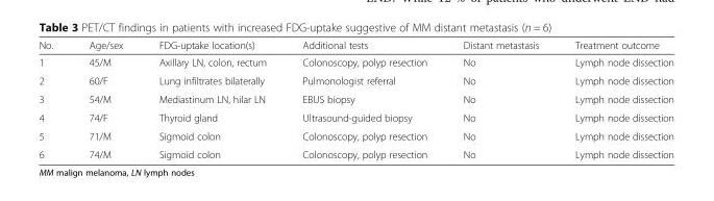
<table><thead><tr><td>No.</td><td>Age/sex</td><td>FDG-uptake location(s)</td><td>Additional tests</td><td>Distant metastasis</td><td>Treatment outcome</td></tr></thead><tbody><tr><td>1</td><td>45/M</td><td>Axillary LN, colon, rectum</td><td>Colonoscopy, polyp resection</td><td>No</td><td>Lymph node dissection</td></tr><tr><td>2</td><td>60/F</td><td>Lung infiltrates bilaterally</td><td>Pulmonologist referral</td><td>No</td><td>Lymph node dissection</td></tr><tr><td>3</td><td>54/M</td><td>Mediastinum LN, hilar LN</td><td>EBUS biopsy</td><td>No</td><td>Lymph node dissection</td></tr><tr><td>4</td><td>74/F</td><td>Thyroid gland</td><td>Ultrasound-guided biopsy</td><td>No</td><td>Lymph node dissection</td></tr><tr><td>5</td><td>71/M</td><td>Sigmoid colon</td><td>Colonoscopy, polyp resection</td><td>No</td><td>Lymph node dissection</td></tr><tr><td>6</td><td>74/M</td><td>Sigmoid colon</td><td>Colonoscopy, polyp resection</td><td>No</td><td>Lymph node dissection</td></tr></tbody></table>